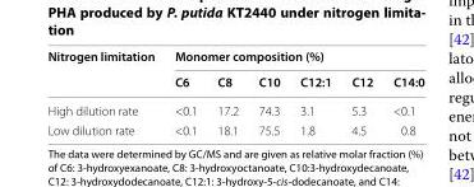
<table><thead><tr><td rowspan="2">Nitrogen limitation</td><td colspan="6">Monomer composition (%)</td></tr><tr><td>C6</td><td>C8</td><td>C10</td><td>C12:1</td><td>C12</td><td>C14:0</td></tr></thead><tbody><tr><td>High dilution rate</td><td>&lt;0.1</td><td>17.2</td><td>74.3</td><td>3.1</td><td>5.3</td><td>&lt;0.1</td></tr><tr><td>Low dilution rate</td><td>&lt;0.1</td><td>18.1</td><td>75.5</td><td>1.8</td><td>4.5</td><td>0.8</td></tr></tbody></table>